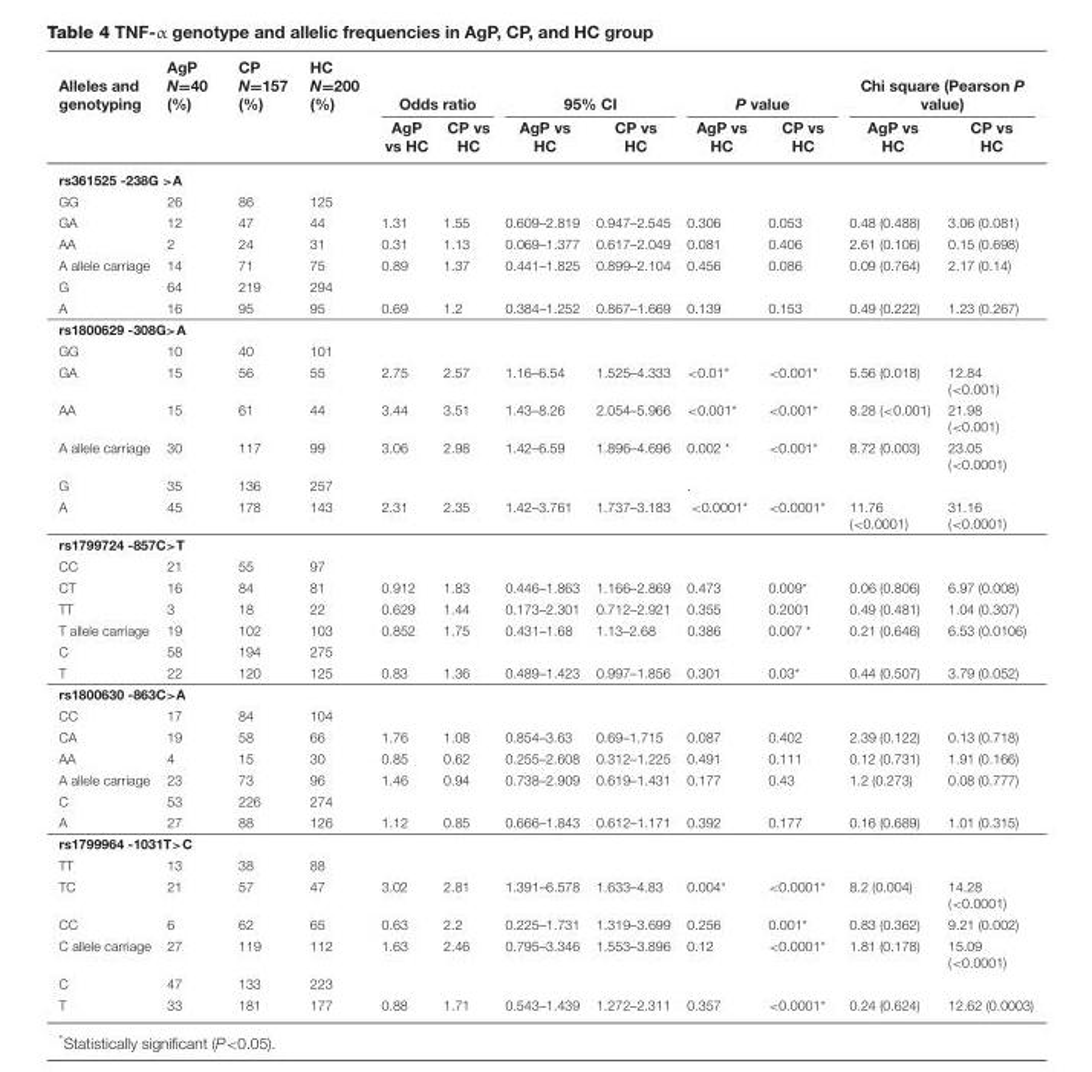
<table><thead><tr><td rowspan="2">Alleles and genotyping</td><td rowspan="2">AgP N=40 (%)</td><td rowspan="2">CP N=157 (%)</td><td rowspan="2">HC N=200 (%)</td><td colspan="2">Odds ratio</td><td colspan="2">95% CI</td><td colspan="2">P value</td><td colspan="2">Chi square (Pearson P value)</td></tr><tr><td>AgP vs HC</td><td>CP vs HC</td><td>AgP vs HC</td><td>CP vs HC</td><td>AgP vs HC</td><td>CP vs HC</td><td>AgP vs HC</td><td>CP vs HC</td></tr></thead><tbody><tr><td colspan="12">rs361525 -238G &gt;A</td></tr><tr><td>GG</td><td>26</td><td>86</td><td>125</td><td></td><td></td><td></td><td></td><td></td><td></td><td></td><td></td></tr><tr><td>GA</td><td>12</td><td>47</td><td>44</td><td>1.31</td><td>1.55</td><td>0.609–2.819</td><td>0.947–2.545</td><td>0.306</td><td>0.053</td><td>0.48 (0.488)</td><td>3.06 (0.081)</td></tr><tr><td>AA</td><td>2</td><td>24</td><td>31</td><td>0.31</td><td>1.13</td><td>0.069–1.377</td><td>0.617–2.049</td><td>0.081</td><td>0.406</td><td>2.61 (0.106)</td><td>0.15 (0.698)</td></tr><tr><td>A allele carriage</td><td>14</td><td>71</td><td>75</td><td>0.89</td><td>1.37</td><td>0.441–1.825</td><td>0.899–2.104</td><td>0.456</td><td>0.086</td><td>0.09 (0.764)</td><td>2.17 (0.14)</td></tr><tr><td>G</td><td>64</td><td>219</td><td>294</td><td></td><td></td><td></td><td></td><td></td><td></td><td></td><td></td></tr><tr><td>A</td><td>16</td><td>95</td><td>95</td><td>0.69</td><td>1.2</td><td>0.384–1.252</td><td>0.867–1.669</td><td>0.139</td><td>0.153</td><td>0.49 (0.222)</td><td>1.23 (0.267)</td></tr><tr><td colspan="12">rs1800629 -308G&gt;A</td></tr><tr><td>GG</td><td>10</td><td>40</td><td>101</td><td></td><td></td><td></td><td></td><td></td><td></td><td></td><td></td></tr><tr><td>GA</td><td>15</td><td>56</td><td>55</td><td>2.75</td><td>2.57</td><td>1.16–6.54</td><td>1.525–4.333</td><td>&lt;0.01*</td><td>&lt;0.001*</td><td>5.56 (0.018)</td><td>12.84 (&lt;0.001)</td></tr><tr><td>AA</td><td>15</td><td>61</td><td>44</td><td>3.44</td><td>3.51</td><td>1.43–8.26</td><td>2.054–5.966</td><td>&lt;0.001*</td><td>&lt;0.001*</td><td>8.28 (&lt;0.001)</td><td>21.98 (&lt;0.001)</td></tr><tr><td>A allele carriage</td><td>30</td><td>117</td><td>99</td><td>3.06</td><td>2.98</td><td>1.42–6.59</td><td>1.896–4.696</td><td>0.002 *</td><td>&lt;0.001*</td><td>8.72 (0.003)</td><td>23.05 (&lt;0.0001)</td></tr><tr><td>G</td><td>35</td><td>136</td><td>257</td><td></td><td></td><td></td><td></td><td>.</td><td></td><td></td><td></td></tr><tr><td>A</td><td>45</td><td>178</td><td>143</td><td>2.31</td><td>2.35</td><td>1.42–3.761</td><td>1.737–3.183</td><td>&lt;0.0001*</td><td>&lt;0.0001*</td><td>11.76 (&lt;0.0001)</td><td>31.16 (&lt;0.0001)</td></tr><tr><td colspan="12">rs1799724 -857C&gt;T</td></tr><tr><td>CC</td><td>21</td><td>55</td><td>97</td><td></td><td></td><td></td><td></td><td></td><td></td><td></td><td></td></tr><tr><td>CT</td><td>16</td><td>84</td><td>81</td><td>0.912</td><td>1.83</td><td>0.446–1.863</td><td>1.166–2.869</td><td>0.473</td><td>0.009*</td><td>0.06 (0.806)</td><td>6.97 (0.008)</td></tr><tr><td>TT</td><td>3</td><td>18</td><td>22</td><td>0.629</td><td>1.44</td><td>0.173–2.301</td><td>0.712–2.921</td><td>0.355</td><td>0.2001</td><td>0.49 (0.481)</td><td>1.04 (0.307)</td></tr><tr><td>T allele carriage</td><td>19</td><td>102</td><td>103</td><td>0.852</td><td>1.75</td><td>0.431–1.68</td><td>1.13–2.68</td><td>0.386</td><td>0.007 *</td><td>0.21 (0.646)</td><td>6.53 (0.0106)</td></tr><tr><td>C</td><td>58</td><td>194</td><td>275</td><td></td><td></td><td></td><td></td><td></td><td></td><td></td><td></td></tr><tr><td>T</td><td>22</td><td>120</td><td>125</td><td>0.83</td><td>1.36</td><td>0.489–1.423</td><td>0.997–1.856</td><td>0.301</td><td>0.03*</td><td>0.44 (0.507)</td><td>3.79 (0.052)</td></tr><tr><td colspan="12">rs1800630 -863C&gt;A</td></tr><tr><td>CC</td><td>17</td><td>84</td><td>104</td><td></td><td></td><td></td><td></td><td></td><td></td><td></td><td></td></tr><tr><td>CA</td><td>19</td><td>58</td><td>66</td><td>1.76</td><td>1.08</td><td>0.854–3.63</td><td>0.69–1.715</td><td>0.087</td><td>0.402</td><td>2.39 (0.122)</td><td>0.13 (0.718)</td></tr><tr><td>AA</td><td>4</td><td>15</td><td>30</td><td>0.85</td><td>0.62</td><td>0.255–2.608</td><td>0.312–1.225</td><td>0.491</td><td>0.111</td><td>0.12 (0.731)</td><td>1.91 (0.166)</td></tr><tr><td>A allele carriage</td><td>23</td><td>73</td><td>96</td><td>1.46</td><td>0.94</td><td>0.738–2.909</td><td>0.619–1.431</td><td>0.177</td><td>0.43</td><td>1.2 (0.273)</td><td>0.08 (0.777)</td></tr><tr><td>C</td><td>53</td><td>226</td><td>274</td><td></td><td></td><td></td><td></td><td></td><td></td><td></td><td></td></tr><tr><td>A</td><td>27</td><td>88</td><td>126</td><td>1.12</td><td>0.85</td><td>0.666–1.843</td><td>0.612–1.171</td><td>0.392</td><td>0.177</td><td>0.16 (0.689)</td><td>1.01 (0.315)</td></tr><tr><td colspan="12">rs1799964 -1031T&gt;C</td></tr><tr><td>TT</td><td>13</td><td>38</td><td>88</td><td></td><td></td><td></td><td></td><td></td><td></td><td></td><td></td></tr><tr><td>TC</td><td>21</td><td>57</td><td>47</td><td>3.02</td><td>2.81</td><td>1.391–6.578</td><td>1.633–4.83</td><td>0.004*</td><td>&lt;0.0001*</td><td>8.2 (0.004)</td><td>14.28 (&lt;0.0001)</td></tr><tr><td>CC</td><td>6</td><td>62</td><td>65</td><td>0.63</td><td>2.2</td><td>0.225–1.731</td><td>1.319–3.699</td><td>0.256</td><td>0.001*</td><td>0.83 (0.362)</td><td>9.21 (0.002)</td></tr><tr><td>C allele carriage</td><td>27</td><td>119</td><td>112</td><td>1.63</td><td>2.46</td><td>0.795–3.346</td><td>1.553–3.896</td><td>0.12</td><td>&lt;0.0001*</td><td>1.81 (0.178)</td><td>15.09 (&lt;0.0001)</td></tr><tr><td>C</td><td>47</td><td>133</td><td>223</td><td></td><td></td><td></td><td></td><td></td><td></td><td></td><td></td></tr><tr><td>T</td><td>33</td><td>181</td><td>177</td><td>0.88</td><td>1.71</td><td>0.543–1.439</td><td>1.272–2.311</td><td>0.357</td><td>&lt;0.0001*</td><td>0.24 (0.624)</td><td>12.62 (0.0003)</td></tr></tbody></table>